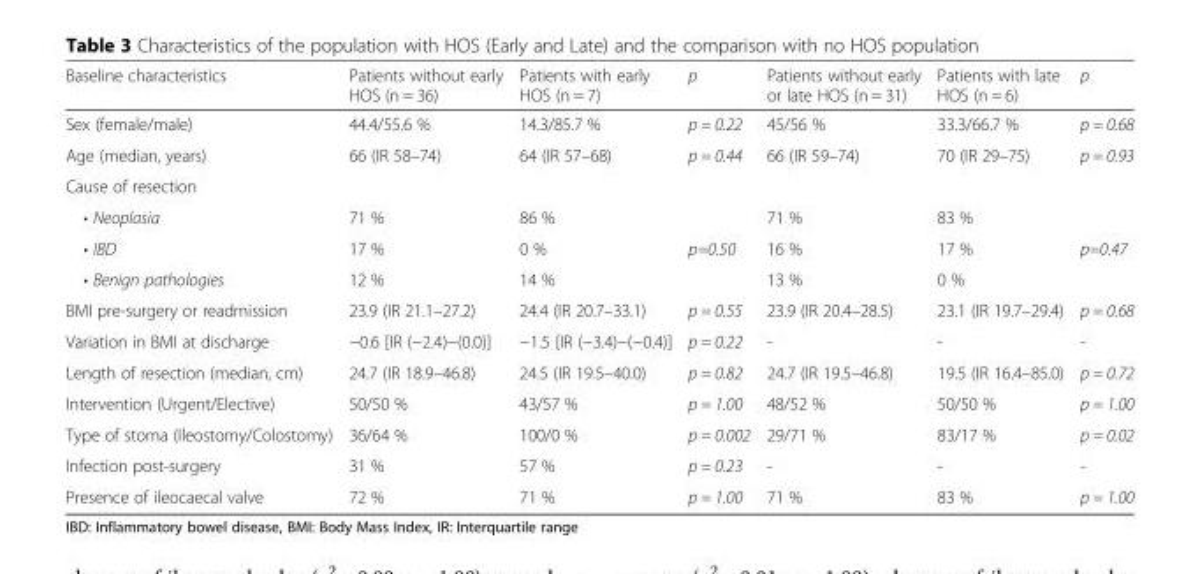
<table><thead><tr><td>Baseline characteristics</td><td>Patients without early HOS (n = 36)</td><td>Patients with early HOS (n = 7)</td><td>p</td><td>Patients without early or late HOS (n = 31)</td><td>Patients with late HOS (n = 6)</td><td>p</td></tr></thead><tbody><tr><td>Sex (female/male)</td><td>44.4/55.6 %</td><td>14.3/85.7 %</td><td>p = 0.22</td><td>45/56 %</td><td>33.3/66.7 %</td><td>p = 0.68</td></tr><tr><td>Age (median, years)</td><td>66 (IR 58–74)</td><td>64 (IR 57–68)</td><td>p = 0.44</td><td>66 (IR 59–74)</td><td>70 (IR 29–75)</td><td>p = 0.93</td></tr><tr><td colspan="7">Cause of resection</td></tr><tr><td>• Neoplasia</td><td>71 %</td><td>86 %</td><td rowspan="3">p=0.50</td><td>71 %</td><td>83 %</td><td rowspan="3">p=0.47</td></tr><tr><td>• IBD</td><td>17 %</td><td>0 %</td><td>16 %</td><td>17 %</td></tr><tr><td>• Benign pathologies</td><td>12 %</td><td>14 %</td><td>13 %</td><td>0 %</td></tr><tr><td>BMI pre-surgery or readmission</td><td>23.9 (IR 21.1–27.2)</td><td>24.4 (IR 20.7–33.1)</td><td>p = 0.55</td><td>23.9 (IR 20.4–28.5)</td><td>23.1 (IR 19.7–29.4)</td><td>p = 0.68</td></tr><tr><td>Variation in BMI at discharge</td><td>−0.6 [IR (−2.4)−(0.0)]</td><td>−1.5 [IR (−3.4)−(−0.4)]</td><td>p = 0.22</td><td>-</td><td>-</td><td>-</td></tr><tr><td>Length of resection (median, cm)</td><td>24.7 (IR 18.9–46.8)</td><td>24.5 (IR 19.5–40.0)</td><td>p = 0.82</td><td>24.7 (IR 19.5–46.8)</td><td>19.5 (IR 16.4–85.0)</td><td>p = 0.72</td></tr><tr><td>Intervention (Urgent/Elective)</td><td>50/50 %</td><td>43/57 %</td><td>p = 1.00</td><td>48/52 %</td><td>50/50 %</td><td>p = 1.00</td></tr><tr><td>Type of stoma (Ileostomy/Colostomy)</td><td>36/64 %</td><td>100/0 %</td><td>p = 0.002</td><td>29/71 %</td><td>83/17 %</td><td>p = 0.02</td></tr><tr><td>Infection post-surgery</td><td>31 %</td><td>57 %</td><td>p = 0.23</td><td>-</td><td>-</td><td>-</td></tr><tr><td>Presence of ileocaecal valve</td><td>72 %</td><td>71 %</td><td>p = 1.00</td><td>71 %</td><td>83 %</td><td>p = 1.00</td></tr></tbody></table>